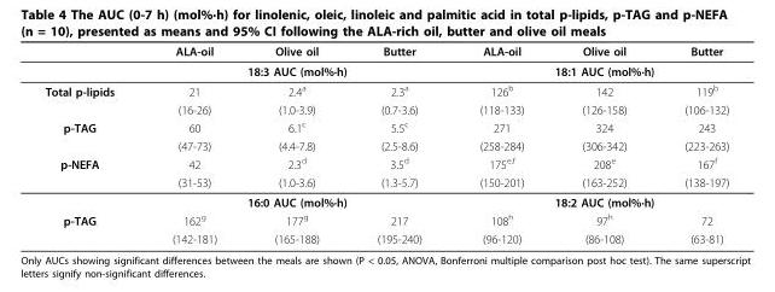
<table><thead><tr><td></td><td>ALA-oil</td><td>Olive oil</td><td>Butter</td><td>ALA-oil</td><td>Olive oil</td><td>Butter</td></tr></thead><tbody><tr><td></td><td colspan="3">18:3 AUC (mol%·h)</td><td colspan="3">18:1 AUC (mol%·h)</td></tr><tr><td rowspan="2">Total p-lipids</td><td>21</td><td>2.4<sup>a</sup></td><td>2.3<sup>a</sup></td><td>126<sup>b</sup></td><td>142</td><td>119<sup>b</sup></td></tr><tr><td>(16-26)</td><td>(1.0-3.9)</td><td>(0.7-3.6)</td><td>(118-133)</td><td>(126-158)</td><td>(106-132)</td></tr><tr><td rowspan="2">p-TAG</td><td>60</td><td>6.1<sup>c</sup></td><td>5.5<sup>c</sup></td><td>271</td><td>324</td><td>243</td></tr><tr><td>(47-73)</td><td>(4.4-7.8)</td><td>(2.5-8.6)</td><td>(258-284)</td><td>(306-342)</td><td>(223-263)</td></tr><tr><td rowspan="3">p-NEFA</td><td>42</td><td>2.3<sup>d</sup></td><td>3.5<sup>d</sup></td><td>175<sup>e,f</sup></td><td>208<sup>e</sup></td><td>167<sup>f</sup></td></tr><tr><td>(31-53)</td><td>(1.0-3.6)</td><td>(1.3-5.7)</td><td>(150-201)</td><td>(163-252)</td><td>(138-197)</td></tr><tr><td colspan="3">16:0 AUC (mol%·h)</td><td colspan="3">18:2 AUC (mol%·h)</td></tr><tr><td rowspan="2">p-TAG</td><td>162<sup>g</sup></td><td>177<sup>g</sup></td><td>217</td><td>108<sup>h</sup></td><td>97<sup>h</sup></td><td>72</td></tr><tr><td>(142-181)</td><td>(165-188)</td><td>(195-240)</td><td>(96-120)</td><td>(86-108)</td><td>(63-81)</td></tr></tbody></table>